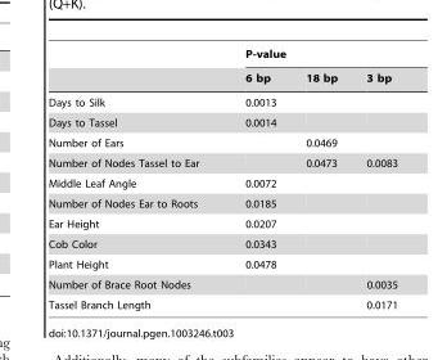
<table><thead><tr><td rowspan="2"></td><td colspan="3">P-value</td></tr><tr><td>6 bp</td><td>18 bp</td><td>3 bp</td></tr></thead><tbody><tr><td>Days to Silk</td><td>0.0013</td><td></td><td></td></tr><tr><td>Days to Tassel</td><td>0.0014</td><td></td><td></td></tr><tr><td>Number of Ears</td><td></td><td>0.0469</td><td></td></tr><tr><td>Number of Nodes Tassel to Ear</td><td></td><td>0.0473</td><td>0.0083</td></tr><tr><td>Middle Leaf Angle</td><td>0.0072</td><td></td><td></td></tr><tr><td>Number of Nodes Ear to Roots</td><td>0.0185</td><td></td><td></td></tr><tr><td>Ear Height</td><td>0.0207</td><td></td><td></td></tr><tr><td>Cob Color</td><td>0.0343</td><td></td><td></td></tr><tr><td>Plant Height</td><td>0.0478</td><td></td><td></td></tr><tr><td>Number of Brace Root Nodes</td><td></td><td></td><td>0.0035</td></tr><tr><td>Tassel Branch Length</td><td></td><td></td><td>0.0171</td></tr></tbody></table>